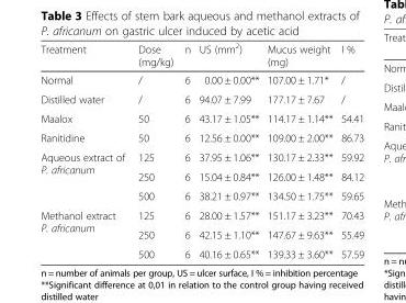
<table><thead><tr><td>Treatment</td><td>Dose (mg/kg)</td><td>n</td><td>US (mm<sup>2</sup>)</td><td>Mucus weight (mg)</td><td>I %</td></tr></thead><tbody><tr><td>Normal</td><td>/</td><td>6</td><td>0.00 ± 0.00**</td><td>107.00 ± 1.71*</td><td>/</td></tr><tr><td>Distilled water</td><td>/</td><td>6</td><td>94.07 ± 7.99</td><td>177.17 ± 7.67</td><td>/</td></tr><tr><td>Maalox</td><td>50</td><td>6</td><td>43.17 ± 1.05**</td><td>114.17 ± 1.14**</td><td>54.41</td></tr><tr><td>Ranitidine</td><td>50</td><td>6</td><td>12.56 ± 0.00**</td><td>109.00 ± 2.00**</td><td>86.73</td></tr><tr><td rowspan="3">Aqueous extract of P. africanum</td><td>125</td><td>6</td><td>37.95 ± 1.06**</td><td>130.17 ± 2.33**</td><td>59.92</td></tr><tr><td>250</td><td>6</td><td>15.04 ± 0.84**</td><td>126.00 ± 1.48**</td><td>84.12</td></tr><tr><td>500</td><td>6</td><td>38.21 ± 0.97**</td><td>134.50 ± 1.75**</td><td>59.65</td></tr><tr><td rowspan="3">Methanol extract P. africanum</td><td>125</td><td>6</td><td>28.00 ± 1.57**</td><td>151.17 ± 3.23**</td><td>70.43</td></tr><tr><td>250</td><td>6</td><td>42.15 ± 1.10**</td><td>147.67 ± 9.63**</td><td>55.49</td></tr><tr><td>500</td><td>6</td><td>40.16 ± 0.65**</td><td>139.33 ± 3.60**</td><td>57.59</td></tr></tbody></table>